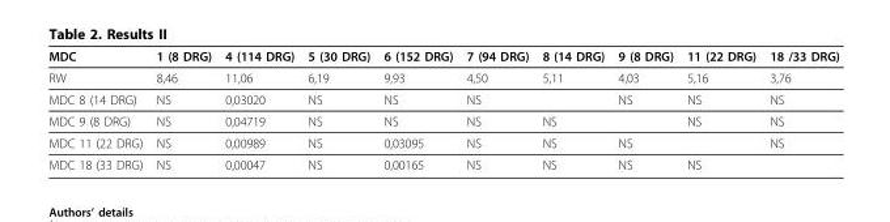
<table><thead><tr><td>MDC</td><td>1 (8 DRG)</td><td>4 (114 DRG)</td><td>5 (30 DRG)</td><td>6 (152 DRG)</td><td>7 (94 DRG)</td><td>8 (14 DRG)</td><td>9 (8 DRG)</td><td>11 (22 DRG)</td><td>18 /33 DRG)</td></tr></thead><tbody><tr><td>RW</td><td>8,46</td><td>11,06</td><td>6,19</td><td>9,93</td><td>4,50</td><td>5,11</td><td>4,03</td><td>5,16</td><td>3,76</td></tr><tr><td>MDC 8 (14 DRG)</td><td>NS</td><td>0,03020</td><td>NS</td><td>NS</td><td>NS</td><td></td><td>NS</td><td>NS</td><td>NS</td></tr><tr><td>MDC 9 (8 DRG)</td><td>NS</td><td>0,04719</td><td>NS</td><td>NS</td><td>NS</td><td>NS</td><td></td><td>NS</td><td>NS</td></tr><tr><td>MDC 11 (22 DRG)</td><td>NS</td><td>0,00989</td><td>NS</td><td>0,03095</td><td>NS</td><td>NS</td><td>NS</td><td></td><td>NS</td></tr><tr><td>MDC 18 (33 DRG)</td><td>NS</td><td>0,00047</td><td>NS</td><td>0,00165</td><td>NS</td><td>NS</td><td>NS</td><td>NS</td><td></td></tr></tbody></table>